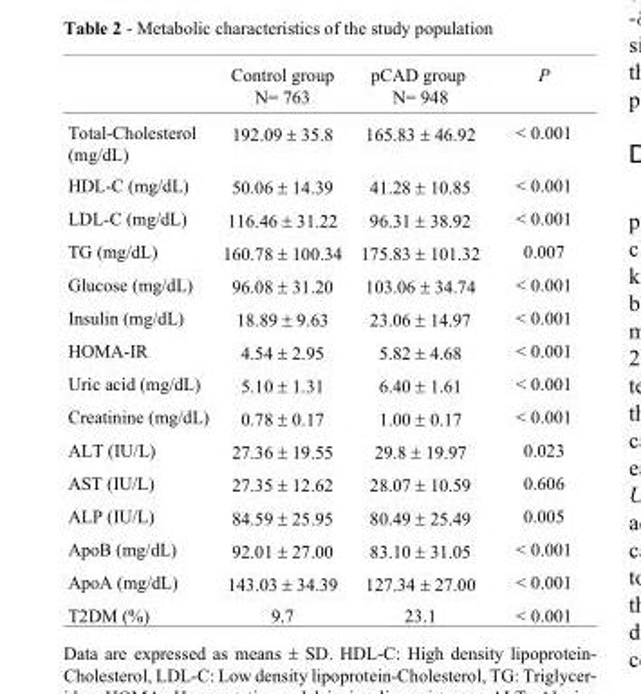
<table><thead><tr><td></td><td>Control group N= 763</td><td>pCAD group N= 948</td><td>P</td></tr></thead><tbody><tr><td>Total-Cholesterol (mg/dL)</td><td>192.09 ± 35.8</td><td>165.83 ± 46.92</td><td>&lt; 0.001</td></tr><tr><td>HDL-C (mg/dL)</td><td>50.06 ± 14.39</td><td>41.28 ± 10.85</td><td>&lt; 0.001</td></tr><tr><td>LDL-C (mg/dL)</td><td>116.46 ± 31.22</td><td>96.31 ± 38.92</td><td>&lt; 0.001</td></tr><tr><td>TG (mg/dL)</td><td>160.78 ± 100.34</td><td>175.83 ± 101.32</td><td>0.007</td></tr><tr><td>Glucose (mg/dL)</td><td>96.08 ± 31.20</td><td>103.06 ± 34.74</td><td>&lt; 0.001</td></tr><tr><td>Insulin (mg/dL)</td><td>18.89 ± 9.63</td><td>23.06 ± 14.97</td><td>&lt; 0.001</td></tr><tr><td>HOMA-IR</td><td>4.54 ± 2.95</td><td>5.82 ± 4.68</td><td>&lt; 0.001</td></tr><tr><td>Uric acid (mg/dL)</td><td>5.10 ± 1.31</td><td>6.40 ± 1.61</td><td>&lt; 0.001</td></tr><tr><td>Creatinine (mg/dL)</td><td>0.78 ± 0.17</td><td>1.00 ± 0.17</td><td>&lt; 0.001</td></tr><tr><td>ALT (IU/L)</td><td>27.36 ± 19.55</td><td>29.8 ± 19.97</td><td>0.023</td></tr><tr><td>AST (IU/L)</td><td>27.35 ± 12.62</td><td>28.07 ± 10.59</td><td>0.606</td></tr><tr><td>ALP (IU/L)</td><td>84.59 ± 25.95</td><td>80.49 ± 25.49</td><td>0.005</td></tr><tr><td>ApoB (mg/dL)</td><td>92.01 ± 27.00</td><td>83.10 ± 31.05</td><td>&lt; 0.001</td></tr><tr><td>ApoA (mg/dL)</td><td>143.03 ± 34.39</td><td>127.34 ± 27.00</td><td>&lt; 0.001</td></tr><tr><td>T2DM (%)</td><td>9.7</td><td>23.1</td><td>&lt; 0.001</td></tr></tbody></table>